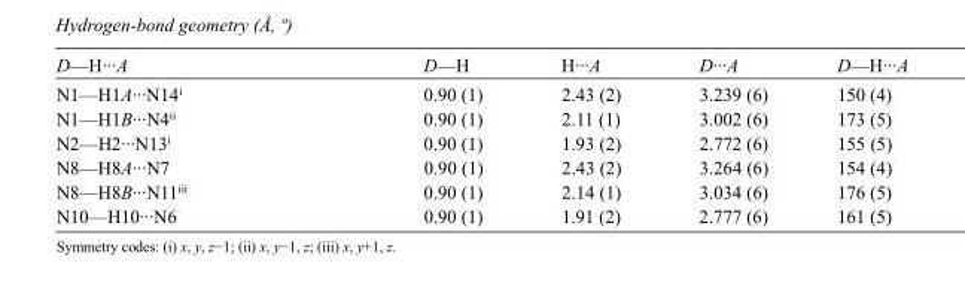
<table><tbody><tr><td>D—H···A</td><td>D—H</td><td>H···A</td><td>D···A</td><td>D—H···A</td></tr><tr><td>N1—H1A···N14<sup>i</sup></td><td>0.90 (1)</td><td>2.43 (2)</td><td>3.239 (6)</td><td>150 (4)</td></tr><tr><td>N1—H1B···N4<sup>ii</sup></td><td>0.90 (1)</td><td>2.11 (1)</td><td>3.002 (6)</td><td>173 (5)</td></tr><tr><td>N2—H2···N13<sup>i</sup></td><td>0.90 (1)</td><td>1.93 (2)</td><td>2.772 (6)</td><td>155 (5)</td></tr><tr><td>N8—H8A···N7</td><td>0.90 (1)</td><td>2.43 (2)</td><td>3.264 (6)</td><td>154 (4)</td></tr><tr><td>N8—H8B···N11<sup>iii</sup></td><td>0.90 (1)</td><td>2.14 (1)</td><td>3.034 (6)</td><td>176 (5)</td></tr><tr><td>N10—H10···N6</td><td>0.90 (1)</td><td>1.91 (2)</td><td>2.777 (6)</td><td>161 (5)</td></tr></tbody></table>